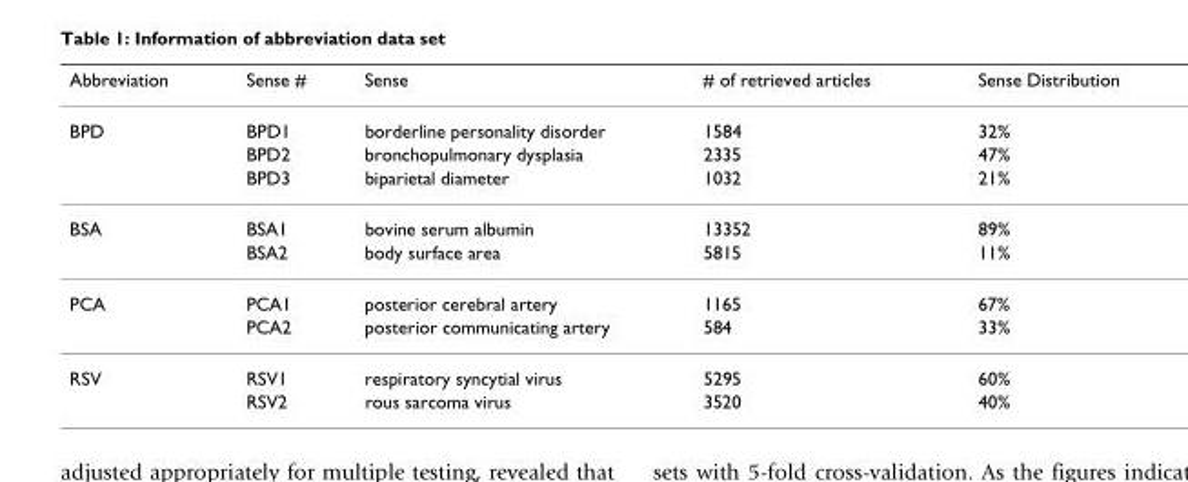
<table><thead><tr><td>Abbreviation</td><td>Sense #</td><td>Sense</td><td># of retrieved articles</td><td>Sense Distribution</td></tr></thead><tbody><tr><td rowspan="3">BPD</td><td>BPD1</td><td>borderline personality disorder</td><td>1584</td><td>32%</td></tr><tr><td>BPD2</td><td>bronchopulmonary dysplasia</td><td>2335</td><td>47%</td></tr><tr><td>BPD3</td><td>biparietal diameter</td><td>1032</td><td>21%</td></tr><tr><td rowspan="2">BSA</td><td>BSA1</td><td>bovine serum albumin</td><td>13352</td><td>89%</td></tr><tr><td>BSA2</td><td>body surface area</td><td>5815</td><td>11%</td></tr><tr><td rowspan="2">PCA</td><td>PCA1</td><td>posterior cerebral artery</td><td>1165</td><td>67%</td></tr><tr><td>PCA2</td><td>posterior communicating artery</td><td>584</td><td>33%</td></tr><tr><td rowspan="2">RSV</td><td>RSV1</td><td>respiratory syncytial virus</td><td>5295</td><td>60%</td></tr><tr><td>RSV2</td><td>rous sarcoma virus</td><td>3520</td><td>40%</td></tr></tbody></table>